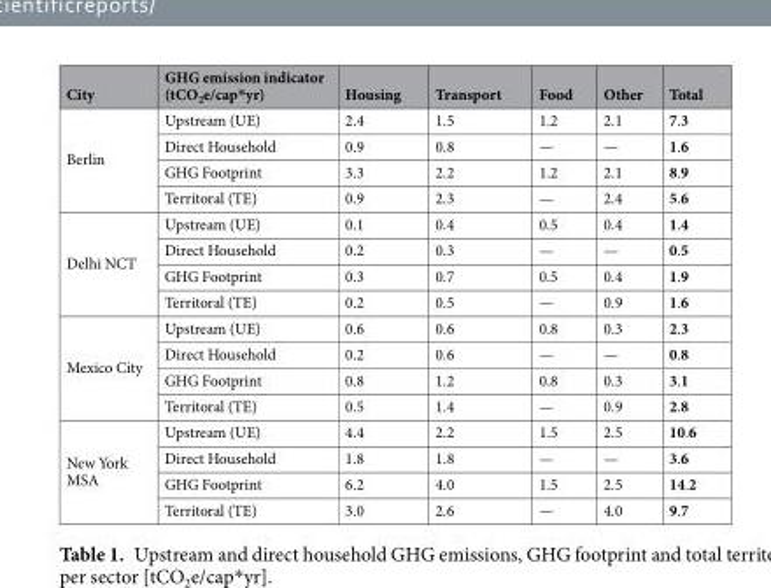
<table><thead><tr><td>City</td><td>GHG emission indicator (tCO<sub>2</sub>e/cap*yr)</td><td>Housing</td><td>Transport</td><td>Food</td><td>Other</td><td>Total</td></tr></thead><tbody><tr><td rowspan="4">Berlin</td><td>Upstream (UE)</td><td>2.4</td><td>1.5</td><td>1.2</td><td>2.1</td><td>7.3</td></tr><tr><td>Direct Household</td><td>0.9</td><td>0.8</td><td>—</td><td>—</td><td>1.6</td></tr><tr><td>GHG Footprint</td><td>3.3</td><td>2.2</td><td>1.2</td><td>2.1</td><td>8.9</td></tr><tr><td>Territoral (TE)</td><td>0.9</td><td>2.3</td><td>—</td><td>2.4</td><td>5.6</td></tr><tr><td rowspan="4">Delhi NCT</td><td>Upstream (UE)</td><td>0.1</td><td>0.4</td><td>0.5</td><td>0.4</td><td>1.4</td></tr><tr><td>Direct Household</td><td>0.2</td><td>0.3</td><td>—</td><td>—</td><td>0.5</td></tr><tr><td>GHG Footprint</td><td>0.3</td><td>0.7</td><td>0.5</td><td>0.4</td><td>1.9</td></tr><tr><td>Territoral (TE)</td><td>0.2</td><td>0.5</td><td>—</td><td>0.9</td><td>1.6</td></tr><tr><td rowspan="4">Mexico City</td><td>Upstream (UE)</td><td>0.6</td><td>0.6</td><td>0.8</td><td>0.3</td><td>2.3</td></tr><tr><td>Direct Household</td><td>0.2</td><td>0.6</td><td>—</td><td>—</td><td>0.8</td></tr><tr><td>GHG Footprint</td><td>0.8</td><td>1.2</td><td>0.8</td><td>0.3</td><td>3.1</td></tr><tr><td>Territoral (TE)</td><td>0.5</td><td>1.4</td><td>—</td><td>0.9</td><td>2.8</td></tr><tr><td rowspan="4">New York MSA</td><td>Upstream (UE)</td><td>4.4</td><td>2.2</td><td>1.5</td><td>2.5</td><td>10.6</td></tr><tr><td>Direct Household</td><td>1.8</td><td>1.8</td><td>—</td><td>—</td><td>3.6</td></tr><tr><td>GHG Footprint</td><td>6.2</td><td>4.0</td><td>1.5</td><td>2.5</td><td>14.2</td></tr><tr><td>Territoral (TE)</td><td>3.0</td><td>2.6</td><td>—</td><td>4.0</td><td>9.7</td></tr></tbody></table>